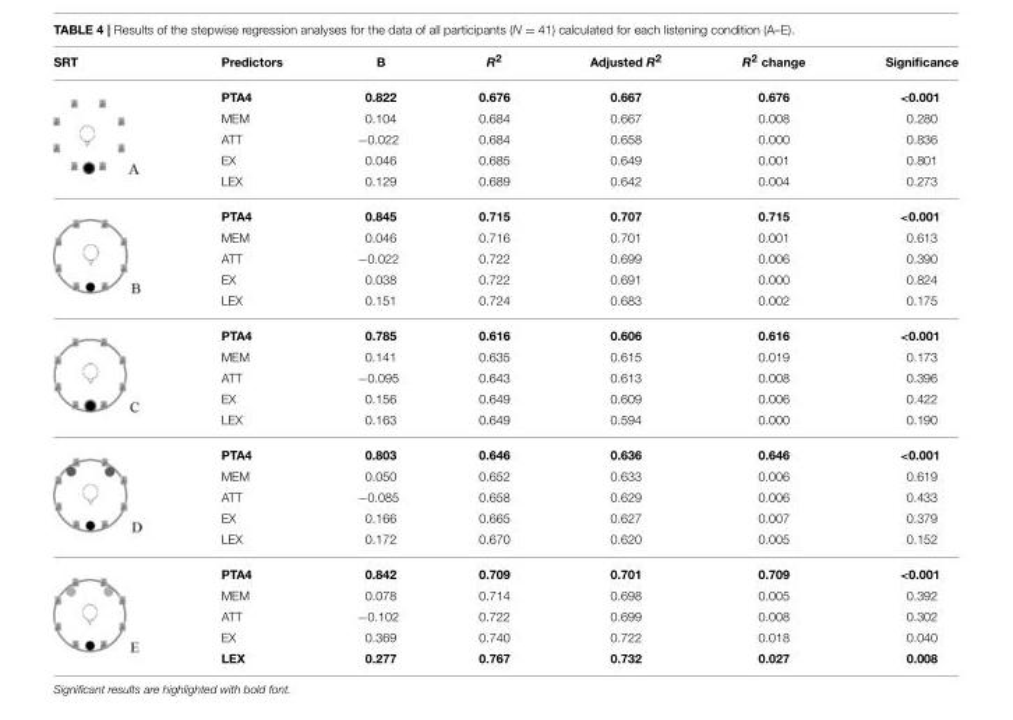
<table><thead><tr><td>SRT</td><td>Predictors</td><td>B</td><td>R<sup>2</sup></td><td>Adjusted R<sup>2</sup></td><td>R<sup>2</sup> change</td><td>Significance</td></tr></thead><tbody><tr><td></td><td>PTA4</td><td>0.822</td><td>0.676</td><td>0.667</td><td>0.676</td><td>&lt;0.001</td></tr><tr><td></td><td>MEM</td><td>0.104</td><td>0.684</td><td>0.667</td><td>0.008</td><td>0.280</td></tr><tr><td></td><td>ATT</td><td>−0.022</td><td>0.684</td><td>0.658</td><td>0.000</td><td>0.836</td></tr><tr><td></td><td>EX</td><td>0.046</td><td>0.685</td><td>0.649</td><td>0.001</td><td>0.801</td></tr><tr><td></td><td>LEX</td><td>0.129</td><td>0.689</td><td>0.642</td><td>0.004</td><td>0.273</td></tr><tr><td></td><td>PTA4</td><td>0.845</td><td>0.715</td><td>0.707</td><td>0.715</td><td>&lt;0.001</td></tr><tr><td></td><td>MEM</td><td>0.046</td><td>0.716</td><td>0.701</td><td>0.001</td><td>0.613</td></tr><tr><td></td><td>ATT</td><td>−0.022</td><td>0.722</td><td>0.699</td><td>0.006</td><td>0.390</td></tr><tr><td></td><td>EX</td><td>0.038</td><td>0.722</td><td>0.691</td><td>0.000</td><td>0.824</td></tr><tr><td></td><td>LEX</td><td>0.151</td><td>0.724</td><td>0.683</td><td>0.002</td><td>0.175</td></tr><tr><td></td><td>PTA4</td><td>0.785</td><td>0.616</td><td>0.606</td><td>0.616</td><td>&lt;0.001</td></tr><tr><td></td><td>MEM</td><td>0.141</td><td>0.635</td><td>0.615</td><td>0.019</td><td>0.173</td></tr><tr><td></td><td>ATT</td><td>−0.095</td><td>0.643</td><td>0.613</td><td>0.008</td><td>0.396</td></tr><tr><td></td><td>EX</td><td>0.156</td><td>0.649</td><td>0.609</td><td>0.006</td><td>0.422</td></tr><tr><td></td><td>LEX</td><td>0.163</td><td>0.649</td><td>0.594</td><td>0.000</td><td>0.190</td></tr><tr><td></td><td>PTA4</td><td>0.803</td><td>0.646</td><td>0.636</td><td>0.646</td><td>&lt;0.001</td></tr><tr><td></td><td>MEM</td><td>0.050</td><td>0.652</td><td>0.633</td><td>0.006</td><td>0.619</td></tr><tr><td></td><td>ATT</td><td>−0.085</td><td>0.658</td><td>0.629</td><td>0.006</td><td>0.433</td></tr><tr><td></td><td>EX</td><td>0.166</td><td>0.665</td><td>0.627</td><td>0.007</td><td>0.379</td></tr><tr><td></td><td>LEX</td><td>0.172</td><td>0.670</td><td>0.620</td><td>0.005</td><td>0.152</td></tr><tr><td></td><td>PTA4</td><td>0.842</td><td>0.709</td><td>0.701</td><td>0.709</td><td>&lt;0.001</td></tr><tr><td></td><td>MEM</td><td>0.078</td><td>0.714</td><td>0.698</td><td>0.005</td><td>0.392</td></tr><tr><td></td><td>ATT</td><td>−0.102</td><td>0.722</td><td>0.699</td><td>0.008</td><td>0.302</td></tr><tr><td></td><td>EX</td><td>0.369</td><td>0.740</td><td>0.722</td><td>0.018</td><td>0.040</td></tr><tr><td></td><td>LEX</td><td>0.277</td><td>0.767</td><td>0.732</td><td>0.027</td><td>0.008</td></tr></tbody></table>